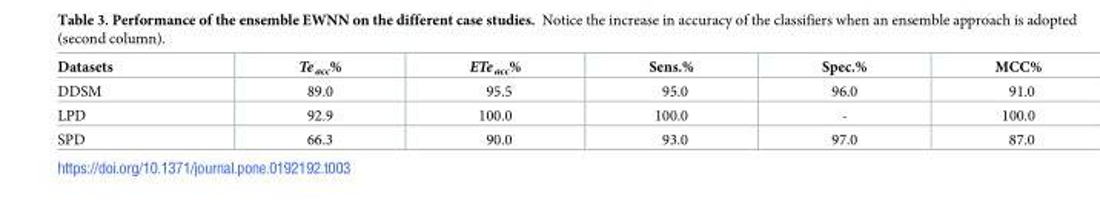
<table><thead><tr><td>Datasets</td><td>Te<sub>acc</sub>%</td><td>ETe<sub>acc</sub>%</td><td>Sens.%</td><td>Spec.%</td><td>MCC%</td></tr></thead><tbody><tr><td>DDSM</td><td>89.0</td><td>95.5</td><td>95.0</td><td>96.0</td><td>91.0</td></tr><tr><td>LPD</td><td>92.9</td><td>100.0</td><td>100.0</td><td>-</td><td>100.0</td></tr><tr><td>SPD</td><td>66.3</td><td>90.0</td><td>93.0</td><td>97.0</td><td>87.0</td></tr></tbody></table>